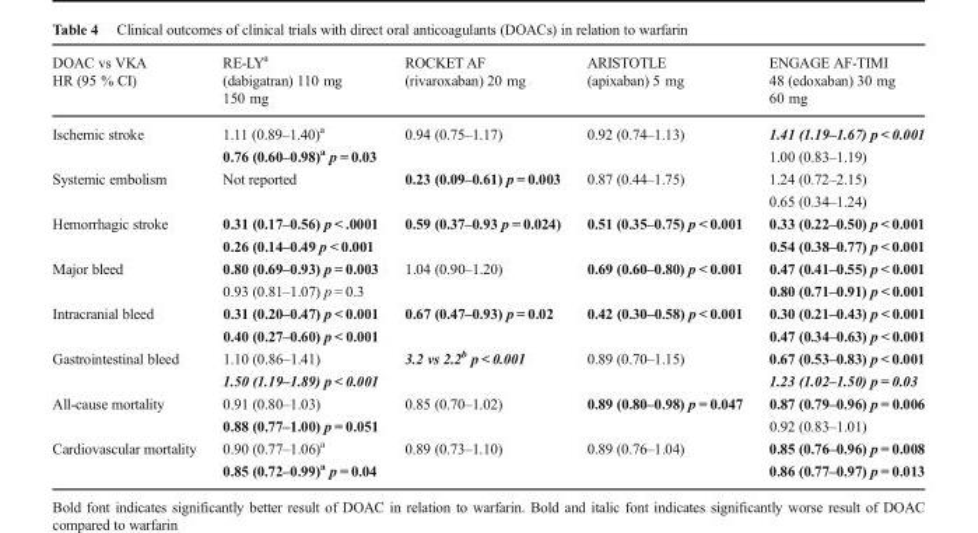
<table><thead><tr><td rowspan="2">DOAC vs VKA HR (95 % CI)</td><td rowspan="2">RE-LY<sup>a</sup> (dabigatran) 110 mg 150 mg</td><td rowspan="2">ROCKET AF (rivaroxaban) 20 mg</td><td rowspan="2">ARISTOTLE (apixaban) 5 mg</td><td rowspan="2">ENGAGE AF-TIMI 48 (edoxaban) 30 mg 60 mg</td></tr><tr></tr></thead><tbody><tr><td rowspan="2">Ischemic stroke</td><td>1.11 (0.89–1.40)<sup>a</sup></td><td rowspan="2">0.94 (0.75–1.17)</td><td rowspan="2">0.92 (0.74–1.13)</td><td>1.41 (1.19–1.67) p &lt; 0.001</td></tr><tr><td>0.76 (0.60–0.98)<sup>a</sup> p = 0.03</td><td>1.00 (0.83–1.19)</td></tr><tr><td rowspan="2">Systemic embolism</td><td rowspan="2">Not reported</td><td rowspan="2">0.23 (0.09–0.61) p = 0.003</td><td rowspan="2">0.87 (0.44–1.75)</td><td>1.24 (0.72–2.15)</td></tr><tr><td>0.65 (0.34–1.24)</td></tr><tr><td rowspan="2">Hemorrhagic stroke</td><td>0.31 (0.17–0.56) p &lt; .0001</td><td rowspan="2">0.59 (0.37–0.93 p = 0.024)</td><td rowspan="2">0.51 (0.35–0.75) p &lt; 0.001</td><td>0.33 (0.22–0.50) p &lt; 0.001</td></tr><tr><td>0.26 (0.14–0.49 p &lt; 0.001</td><td>0.54 (0.38–0.77) p &lt; 0.001</td></tr><tr><td rowspan="2">Major bleed</td><td>0.80 (0.69–0.93) p = 0.003</td><td rowspan="2">1.04 (0.90–1.20)</td><td rowspan="2">0.69 (0.60–0.80) p &lt; 0.001</td><td>0.47 (0.41–0.55) p &lt; 0.001</td></tr><tr><td>0.93 (0.81–1.07) p = 0.3</td><td>0.80 (0.71–0.91) p &lt; 0.001</td></tr><tr><td rowspan="2">Intracranial bleed</td><td>0.31 (0.20–0.47) p &lt; 0.001</td><td rowspan="2">0.67 (0.47–0.93) p = 0.02</td><td rowspan="2">0.42 (0.30–0.58) p &lt; 0.001</td><td>0.30 (0.21–0.43) p &lt; 0.001</td></tr><tr><td>0.40 (0.27–0.60) p &lt; 0.001</td><td>0.47 (0.34–0.63) p &lt; 0.001</td></tr><tr><td rowspan="2">Gastrointestinal bleed</td><td>1.10 (0.86–1.41)</td><td rowspan="2">3.2 vs 2.2<sup>b</sup> p &lt; 0.001</td><td rowspan="2">0.89 (0.70–1.15)</td><td>0.67 (0.53–0.83) p &lt; 0.001</td></tr><tr><td>1.50 (1.19–1.89) p &lt; 0.001</td><td>1.23 (1.02–1.50) p = 0.03</td></tr><tr><td rowspan="2">All-cause mortality</td><td>0.91 (0.80–1.03)</td><td rowspan="2">0.85 (0.70–1.02)</td><td rowspan="2">0.89 (0.80–0.98) p = 0.047</td><td>0.87 (0.79–0.96) p = 0.006</td></tr><tr><td>0.88 (0.77–1.00) p = 0.051</td><td>0.92 (0.83–1.01)</td></tr><tr><td rowspan="2">Cardiovascular mortality</td><td>0.90 (0.77–1.06)<sup>a</sup></td><td rowspan="2">0.89 (0.73–1.10)</td><td rowspan="2">0.89 (0.76–1.04)</td><td>0.85 (0.76–0.96) p = 0.008</td></tr><tr><td>0.85 (0.72–0.99)<sup>a</sup> p = 0.04</td><td>0.86 (0.77–0.97) p = 0.013</td></tr></tbody></table>